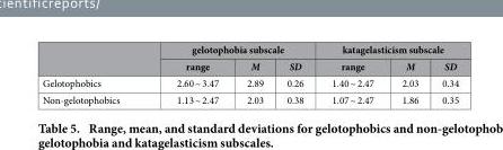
<table><thead><tr><td rowspan="2"></td><td colspan="3">gelotophobia subscale</td><td colspan="3">katagelasticism subscale</td></tr><tr><td>range</td><td>M</td><td>SD</td><td>range</td><td>M</td><td>SD</td></tr></thead><tbody><tr><td>Gelotophobics</td><td>2.60 ~ 3.47</td><td>2.89</td><td>0.26</td><td>1.40 ~ 2.47</td><td>2.03</td><td>0.34</td></tr><tr><td>Non-gelotophobics</td><td>1.13 ~ 2.47</td><td>2.03</td><td>0.38</td><td>1.07 ~ 2.47</td><td>1.86</td><td>0.35</td></tr></tbody></table>